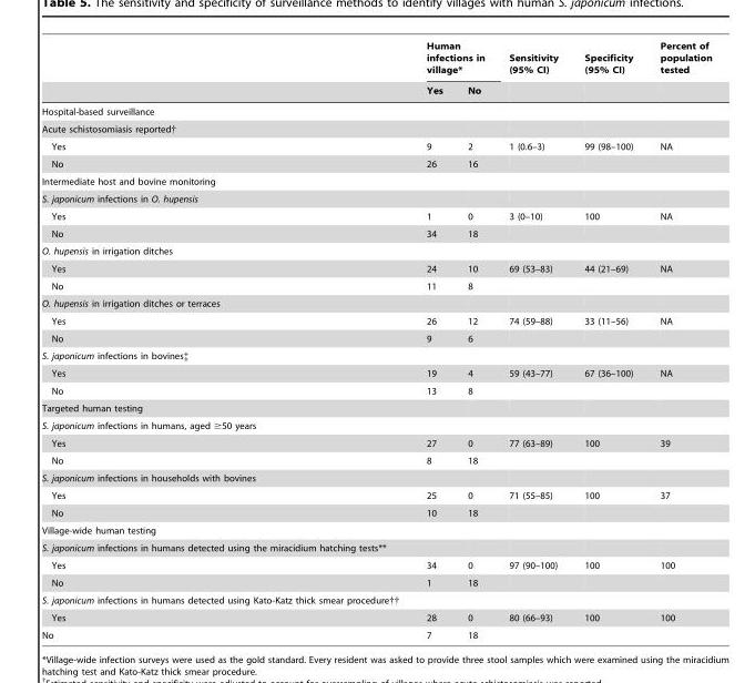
<table><thead><tr><td rowspan="2"></td><td colspan="2">Human infections in village*</td><td rowspan="2">Sensitivity (95% CI)</td><td rowspan="2">Specificity (95% CI)</td><td rowspan="2">Percent of population tested</td></tr><tr><td>Yes</td><td>No</td></tr></thead><tbody><tr><td colspan="6">Hospital-based surveillance</td></tr><tr><td colspan="6">Acute schistosomiasis reported†</td></tr><tr><td>Yes</td><td>9</td><td>2</td><td>1 (0.6–3)</td><td>99 (98–100)</td><td>NA</td></tr><tr><td>No</td><td>26</td><td>16</td><td></td><td></td><td></td></tr><tr><td colspan="6">Intermediate host and bovine monitoring</td></tr><tr><td colspan="6">S. japonicum infections in O. hupensis</td></tr><tr><td>Yes</td><td>1</td><td>0</td><td>3 (0–10)</td><td>100</td><td>NA</td></tr><tr><td>No</td><td>34</td><td>18</td><td></td><td></td><td></td></tr><tr><td colspan="6">O. hupensis in irrigation ditches</td></tr><tr><td>Yes</td><td>24</td><td>10</td><td>69 (53–83)</td><td>44 (21–69)</td><td>NA</td></tr><tr><td>No</td><td>11</td><td>8</td><td></td><td></td><td></td></tr><tr><td colspan="6">O. hupensis in irrigation ditches or terraces</td></tr><tr><td>Yes</td><td>26</td><td>12</td><td>74 (59–88)</td><td>33 (11–56)</td><td>NA</td></tr><tr><td>No</td><td>9</td><td>6</td><td></td><td></td><td></td></tr><tr><td colspan="6">S. japonicum infections in bovines‡</td></tr><tr><td>Yes</td><td>19</td><td>4</td><td>59 (43–77)</td><td>67 (36–100)</td><td>NA</td></tr><tr><td>No</td><td>13</td><td>8</td><td></td><td></td><td></td></tr><tr><td colspan="6">Targeted human testing</td></tr><tr><td colspan="6">S. japonicum infections in humans, aged ≥50 years</td></tr><tr><td>Yes</td><td>27</td><td>0</td><td>77 (63–89)</td><td>100</td><td>39</td></tr><tr><td>No</td><td>8</td><td>18</td><td></td><td></td><td></td></tr><tr><td colspan="6">S. japonicum infections in households with bovines</td></tr><tr><td>Yes</td><td>25</td><td>0</td><td>71 (55–85)</td><td>100</td><td>37</td></tr><tr><td>No</td><td>10</td><td>18</td><td></td><td></td><td></td></tr><tr><td colspan="6">Village-wide human testing</td></tr><tr><td colspan="6">S. japonicum infections in humans detected using the miracidium hatching tests**</td></tr><tr><td>Yes</td><td>34</td><td>0</td><td>97 (90–100)</td><td>100</td><td>100</td></tr><tr><td>No</td><td>1</td><td>18</td><td></td><td></td><td></td></tr><tr><td colspan="6">S. japonicum infections in humans detected using Kato-Katz thick smear procedure††</td></tr><tr><td>Yes</td><td>28</td><td>0</td><td>80 (66–93)</td><td>100</td><td>100</td></tr><tr><td>No</td><td>7</td><td>18</td><td></td><td></td><td></td></tr></tbody></table>